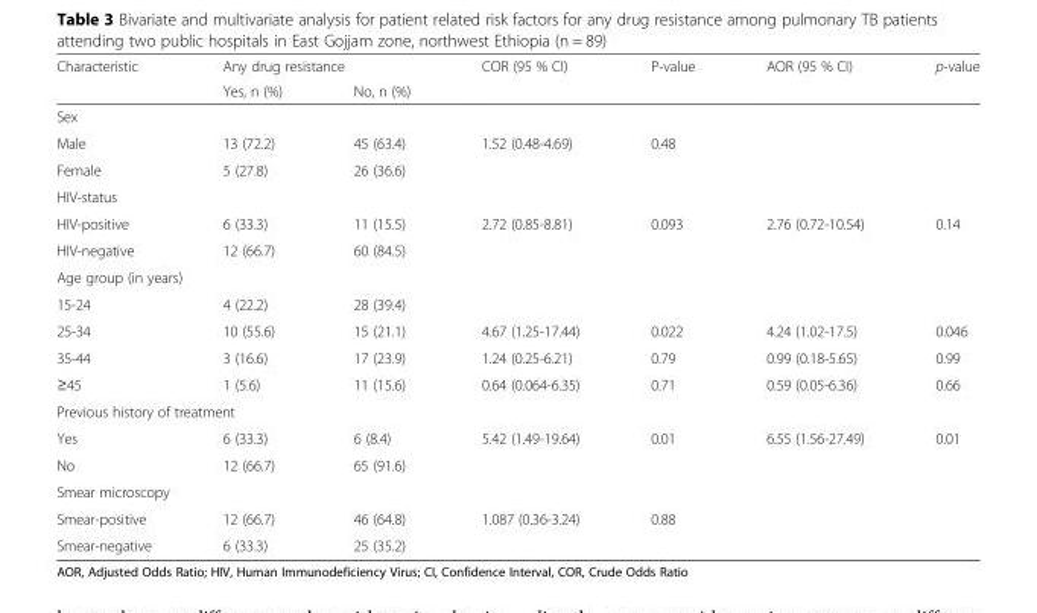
<table><thead><tr><td rowspan="2">Characteristic</td><td colspan="2">Any drug resistance</td><td rowspan="2">COR (95 % CI)</td><td rowspan="2">P-value</td><td rowspan="2">AOR (95 % CI)</td><td rowspan="2">p-value</td></tr><tr><td>Yes, n (%)</td><td>No, n (%)</td></tr></thead><tbody><tr><td colspan="7">Sex</td></tr><tr><td>Male</td><td>13 (72.2)</td><td>45 (63.4)</td><td>1.52 (0.48-4.69)</td><td>0.48</td><td></td><td></td></tr><tr><td>Female</td><td>5 (27.8)</td><td>26 (36.6)</td><td></td><td></td><td></td><td></td></tr><tr><td colspan="7">HIV-status</td></tr><tr><td>HIV-positive</td><td>6 (33.3)</td><td>11 (15.5)</td><td>2.72 (0.85-8.81)</td><td>0.093</td><td>2.76 (0.72-10.54)</td><td>0.14</td></tr><tr><td>HIV-negative</td><td>12 (66.7)</td><td>60 (84.5)</td><td></td><td></td><td></td><td></td></tr><tr><td colspan="7">Age group (in years)</td></tr><tr><td>15-24</td><td>4 (22.2)</td><td>28 (39.4)</td><td></td><td></td><td></td><td></td></tr><tr><td>25-34</td><td>10 (55.6)</td><td>15 (21.1)</td><td>4.67 (1.25-17.44)</td><td>0.022</td><td>4.24 (1.02-17.5)</td><td>0.046</td></tr><tr><td>35-44</td><td>3 (16.6)</td><td>17 (23.9)</td><td>1.24 (0.25-6.21)</td><td>0.79</td><td>0.99 (0.18-5.65)</td><td>0.99</td></tr><tr><td>≥45</td><td>1 (5.6)</td><td>11 (15.6)</td><td>0.64 (0.064-6.35)</td><td>0.71</td><td>0.59 (0.05-6.36)</td><td>0.66</td></tr><tr><td colspan="7">Previous history of treatment</td></tr><tr><td>Yes</td><td>6 (33.3)</td><td>6 (8.4)</td><td>5.42 (1.49-19.64)</td><td>0.01</td><td>6.55 (1.56-27.49)</td><td>0.01</td></tr><tr><td>No</td><td>12 (66.7)</td><td>65 (91.6)</td><td></td><td></td><td></td><td></td></tr><tr><td colspan="7">Smear microscopy</td></tr><tr><td>Smear-positive</td><td>12 (66.7)</td><td>46 (64.8)</td><td>1.087 (0.36-3.24)</td><td>0.88</td><td></td><td></td></tr><tr><td>Smear-negative</td><td>6 (33.3)</td><td>25 (35.2)</td><td></td><td></td><td></td><td></td></tr></tbody></table>